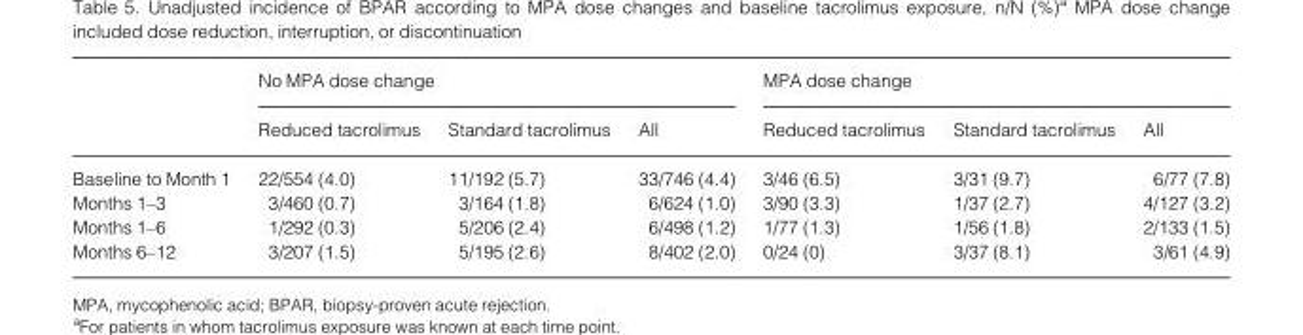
<table><thead><tr><td rowspan="2"></td><td colspan="3">No MPA dose change</td><td colspan="3">MPA dose change</td></tr><tr><td>Reduced tacrolimus</td><td>Standard tacrolimus</td><td>All</td><td>Reduced tacrolimus</td><td>Standard tacrolimus</td><td>All</td></tr></thead><tbody><tr><td>Baseline to Month 1</td><td>22/554 (4.0)</td><td>11/192 (5.7)</td><td>33/746 (4.4)</td><td>3/46 (6.5)</td><td>3/31 (9.7)</td><td>6/77 (7.8)</td></tr><tr><td>Months 1–3</td><td>3/460 (0.7)</td><td>3/164 (1.8)</td><td>6/624 (1.0)</td><td>3/90 (3.3)</td><td>1/37 (2.7)</td><td>4/127 (3.2)</td></tr><tr><td>Months 1–6</td><td>1/292 (0.3)</td><td>5/206 (2.4)</td><td>6/498 (1.2)</td><td>1/77 (1.3)</td><td>1/56 (1.8)</td><td>2/133 (1.5)</td></tr><tr><td>Months 6–12</td><td>3/207 (1.5)</td><td>5/195 (2.6)</td><td>8/402 (2.0)</td><td>0/24 (0)</td><td>3/37 (8.1)</td><td>3/61 (4.9)</td></tr></tbody></table>